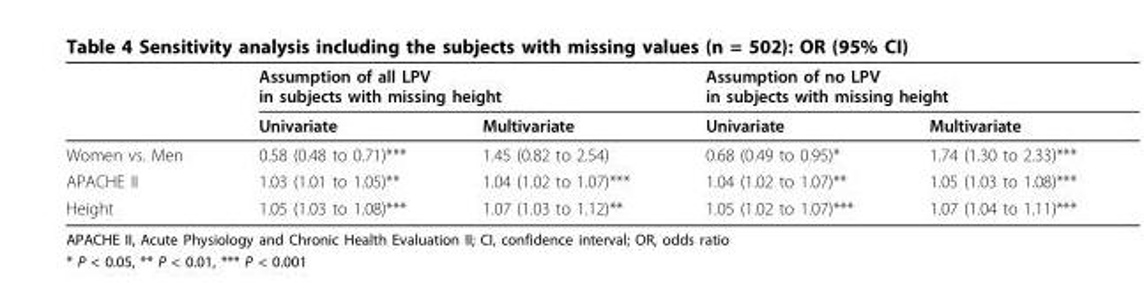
<table><thead><tr><td rowspan="2"></td><td colspan="2">Assumption of all LPV in subjects with missing height</td><td colspan="2">Assumption of no LPV in subjects with missing height</td></tr><tr><td>Univariate</td><td>Multivariate</td><td>Univariate</td><td>Multivariate</td></tr></thead><tbody><tr><td>Women vs. Men</td><td>0.58 (0.48 to 0.71)***</td><td>1.45 (0.82 to 2.54)</td><td>0.68 (0.49 to 0.95)*</td><td>1.74 (1.30 to 2.33)***</td></tr><tr><td>APACHE II</td><td>1.03 (1.01 to 1.05)**</td><td>1.04 (1.02 to 1.07)***</td><td>1.04 (1.02 to 1.07)**</td><td>1.05 (1.03 to 1.08)***</td></tr><tr><td>Height</td><td>1.05 (1.03 to 1.08)***</td><td>1.07 (1.03 to 1.12)**</td><td>1.05 (1.02 to 1.07)***</td><td>1.07 (1.04 to 1.11)***</td></tr></tbody></table>